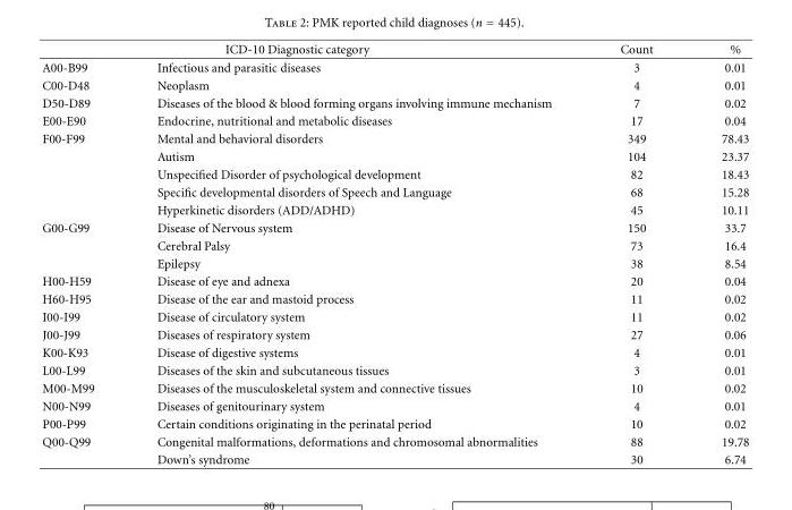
<table><thead><tr><td colspan="2">ICD-10 Diagnostic category</td><td rowspan="2">Count 3</td><td rowspan="2">% 0.01</td></tr><tr><td>A00-B99</td><td>Infectious and parasitic diseases</td></tr></thead><tbody><tr><td>C00-D48</td><td>Neoplasm</td><td>4</td><td>0.01</td></tr><tr><td>D50-D89</td><td>Diseases of the blood &amp; blood forming organs involving immune mechanism</td><td>7</td><td>0.02</td></tr><tr><td>E00-E90</td><td>Endocrine, nutritional and metabolic diseases</td><td>17</td><td>0.04</td></tr><tr><td rowspan="5">F00-F99</td><td>Mental and behavioral disorders</td><td>349</td><td>78.43</td></tr><tr><td>Autism</td><td>104</td><td>23.37</td></tr><tr><td>Unspecified Disorder of psychological development</td><td>82</td><td>18.43</td></tr><tr><td>Specific developmental disorders of Speech and Language</td><td>68</td><td>15.28</td></tr><tr><td>Hyperkinetic disorders (ADD/ADHD)</td><td>45</td><td>10.11</td></tr><tr><td rowspan="3">G00-G99</td><td>Disease of Nervous system</td><td>150</td><td>33.7</td></tr><tr><td>Cerebral Palsy</td><td>73</td><td>16.4</td></tr><tr><td>Epilepsy</td><td>38</td><td>8.54</td></tr><tr><td>H00-H59</td><td>Disease of eye and adnexa</td><td>20</td><td>0.04</td></tr><tr><td>H60-H95</td><td>Disease of the ear and mastoid process</td><td>11</td><td>0.02</td></tr><tr><td>I00-I99</td><td>Disease of circulatory system</td><td>11</td><td>0.02</td></tr><tr><td>J00-J99</td><td>Diseases of respiratory system</td><td>27</td><td>0.06</td></tr><tr><td>K00-K93</td><td>Disease of digestive systems</td><td>4</td><td>0.01</td></tr><tr><td>L00-L99</td><td>Diseases of the skin and subcutaneous tissues</td><td>3</td><td>0.01</td></tr><tr><td>M00-M99</td><td>Diseases of the musculoskeletal system and connective tissues</td><td>10</td><td>0.02</td></tr><tr><td>N00-N99</td><td>Diseases of genitourinary system</td><td>4</td><td>0.01</td></tr><tr><td>P00-P99</td><td>Certain conditions originating in the perinatal period</td><td>10</td><td>0.02</td></tr><tr><td rowspan="2">Q00-Q99</td><td>Congenital malformations, deformations and chromosomal abnormalities</td><td>88</td><td>19.78</td></tr><tr><td>Down’s syndrome</td><td>30</td><td>6.74</td></tr></tbody></table>